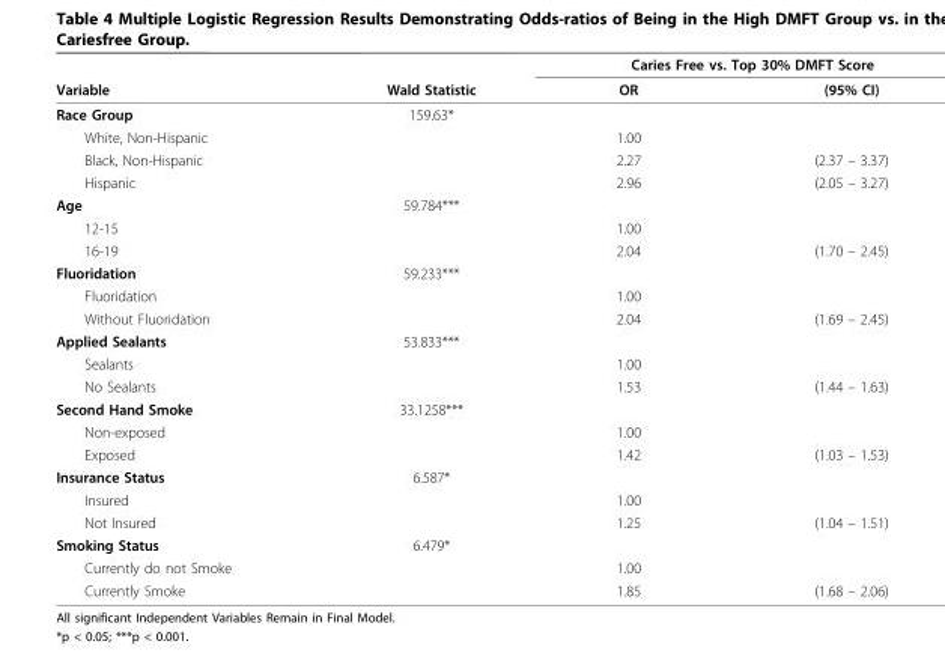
<table><thead><tr><td rowspan="2">Variable</td><td rowspan="2">Wald Statistic</td><td colspan="2">Caries Free vs. Top 30% DMFT Score</td></tr><tr><td>OR</td><td>(95% CI)</td></tr></thead><tbody><tr><td>Race Group</td><td>159.63*</td><td></td><td></td></tr><tr><td>White, Non-Hispanic</td><td></td><td>1.00</td><td></td></tr><tr><td>Black, Non-Hispanic</td><td></td><td>2.27</td><td>(2.37 – 3.37)</td></tr><tr><td>Hispanic</td><td></td><td>2.96</td><td>(2.05 – 3.27)</td></tr><tr><td>Age</td><td>59.784***</td><td></td><td></td></tr><tr><td>12-15</td><td></td><td>1.00</td><td></td></tr><tr><td>16-19</td><td></td><td>2.04</td><td>(1.70 – 2.45)</td></tr><tr><td>Fluoridation</td><td>59.233***</td><td></td><td></td></tr><tr><td>Fluoridation</td><td></td><td>1.00</td><td></td></tr><tr><td>Without Fluoridation</td><td></td><td>2.04</td><td>(1.69 – 2.45)</td></tr><tr><td>Applied Sealants</td><td>53.833***</td><td></td><td></td></tr><tr><td>Sealants</td><td></td><td>1.00</td><td></td></tr><tr><td>No Sealants</td><td></td><td>1.53</td><td>(1.44 – 1.63)</td></tr><tr><td>Second Hand Smoke</td><td>33.1258***</td><td></td><td></td></tr><tr><td>Non-exposed</td><td></td><td>1.00</td><td></td></tr><tr><td>Exposed</td><td></td><td>1.42</td><td>(1.03 – 1.53)</td></tr><tr><td>Insurance Status</td><td>6.587*</td><td></td><td></td></tr><tr><td>Insured</td><td></td><td>1.00</td><td></td></tr><tr><td>Not Insured</td><td></td><td>1.25</td><td>(1.04 – 1.51)</td></tr><tr><td>Smoking Status</td><td>6.479*</td><td></td><td></td></tr><tr><td>Currently do not Smoke</td><td></td><td>1.00</td><td></td></tr><tr><td>Currently Smoke</td><td></td><td>1.85</td><td>(1.68 – 2.06)</td></tr></tbody></table>